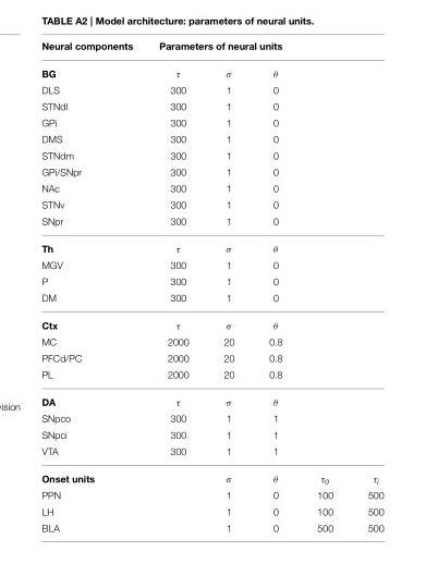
<table><thead><tr><td rowspan="2">Neural components BG</td><td colspan="5">Parameters of neural units</td></tr><tr><td>τ</td><td>σ</td><td>θ</td><td></td><td></td></tr></thead><tbody><tr><td>DLS</td><td>300</td><td>1</td><td>0</td><td></td><td></td></tr><tr><td>STNdl</td><td>300</td><td>1</td><td>0</td><td></td><td></td></tr><tr><td>GPi</td><td>300</td><td>1</td><td>0</td><td></td><td></td></tr><tr><td>DMS</td><td>300</td><td>1</td><td>0</td><td></td><td></td></tr><tr><td>STNdm</td><td>300</td><td>1</td><td>0</td><td></td><td></td></tr><tr><td>GPi/SNpr</td><td>300</td><td>1</td><td>0</td><td></td><td></td></tr><tr><td>NAc</td><td>300</td><td>1</td><td>0</td><td></td><td></td></tr><tr><td>STNv</td><td>300</td><td>1</td><td>0</td><td></td><td></td></tr><tr><td>SNpr</td><td>300</td><td>1</td><td>0</td><td></td><td></td></tr><tr><td>Th</td><td>τ</td><td>σ</td><td>θ</td><td></td><td></td></tr><tr><td>MGV</td><td>300</td><td>1</td><td>0</td><td></td><td></td></tr><tr><td>P</td><td>300</td><td>1</td><td>0</td><td></td><td></td></tr><tr><td>DM</td><td>300</td><td>1</td><td>0</td><td></td><td></td></tr><tr><td>Ctx</td><td>τ</td><td>σ</td><td>θ</td><td></td><td></td></tr><tr><td>MC</td><td>2000</td><td>20</td><td>0.8</td><td></td><td></td></tr><tr><td>PFCd/PC</td><td>2000</td><td>20</td><td>0.8</td><td></td><td></td></tr><tr><td>PL</td><td>2000</td><td>20</td><td>0.8</td><td></td><td></td></tr><tr><td>DA</td><td>τ</td><td>σ</td><td>θ</td><td></td><td></td></tr><tr><td>SNpco</td><td>300</td><td>1</td><td>1</td><td></td><td></td></tr><tr><td>SNpci</td><td>300</td><td>1</td><td>1</td><td></td><td></td></tr><tr><td>VTA</td><td>300</td><td>1</td><td>1</td><td></td><td></td></tr><tr><td>Onset units</td><td></td><td>σ</td><td>θ</td><td>τ<sub>o</sub></td><td>τ<sub>i</sub></td></tr><tr><td>PPN</td><td></td><td>1</td><td>0</td><td>100</td><td>500</td></tr><tr><td>LH</td><td></td><td>1</td><td>0</td><td>100</td><td>500</td></tr><tr><td>BLA</td><td></td><td>1</td><td>0</td><td>500</td><td>500</td></tr></tbody></table>